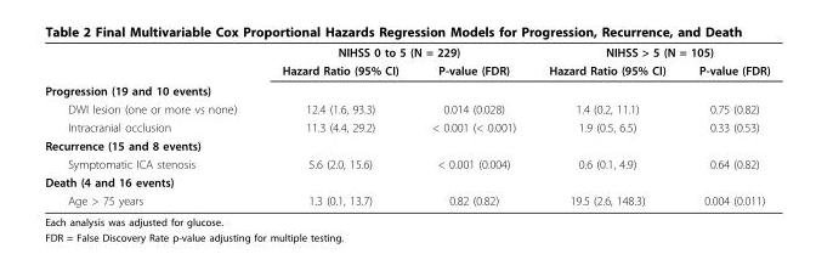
<table><thead><tr><td rowspan="2"></td><td colspan="2">NIHSS 0 to 5 (N = 229)</td><td colspan="2">NIHSS &gt; 5 (N = 105)</td></tr><tr><td>Hazard Ratio (95% CI)</td><td>P-value (FDR)</td><td>Hazard Ratio (95% CI)</td><td>P-value (FDR)</td></tr></thead><tbody><tr><td colspan="5">Progression (19 and 10 events)</td></tr><tr><td>DWI lesion (one or more vs none)</td><td>12.4 (1.6, 93.3)</td><td>0.014 (0.028)</td><td>1.4 (0.2, 11.1)</td><td>0.75 (0.82)</td></tr><tr><td>Intracranial occlusion</td><td>11.3 (4.4, 29.2)</td><td>&lt; 0.001 (&lt; 0.001)</td><td>1.9 (0.5, 6.5)</td><td>0.33 (0.53)</td></tr><tr><td colspan="5">Recurrence (15 and 8 events)</td></tr><tr><td>Symptomatic ICA stenosis</td><td>5.6 (2.0, 15.6)</td><td>&lt; 0.001 (0.004)</td><td>0.6 (0.1, 4.9)</td><td>0.64 (0.82)</td></tr><tr><td colspan="5">Death (4 and 16 events)</td></tr><tr><td>Age &gt; 75 years</td><td>1.3 (0.1, 13.7)</td><td>0.82 (0.82)</td><td>19.5 (2.6, 148.3)</td><td>0.004 (0.011)</td></tr></tbody></table>